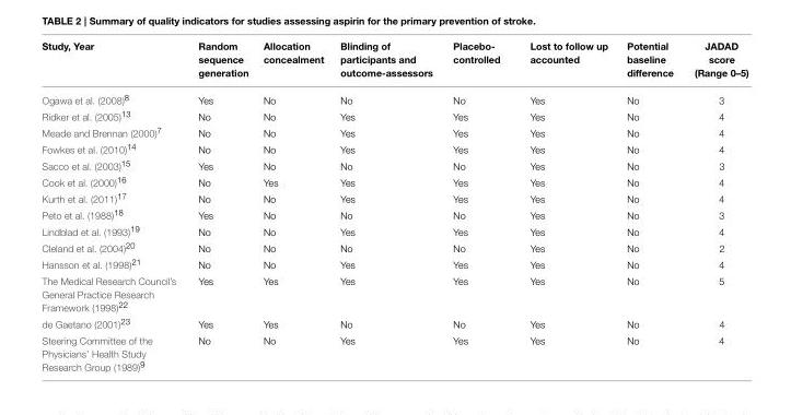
<table><thead><tr><td>Study, Year</td><td>Random sequence generation</td><td>Allocation concealment</td><td>Blinding of participants and outcome-assessors</td><td>Placebo- controlled</td><td>Lost to follow up accounted</td><td>Potential baseline difference</td><td>JADAD score (Range 0–5)</td></tr></thead><tbody><tr><td>Ogawa et al. (2008)<sup>8</sup></td><td>Yes</td><td>No</td><td>No</td><td>No</td><td>Yes</td><td>No</td><td>3</td></tr><tr><td>Ridker et al. (2005)<sup>13</sup></td><td>No</td><td>No</td><td>Yes</td><td>Yes</td><td>Yes</td><td>No</td><td>4</td></tr><tr><td>Meade and Brennan (2000)<sup>7</sup></td><td>No</td><td>No</td><td>Yes</td><td>Yes</td><td>Yes</td><td>No</td><td>4</td></tr><tr><td>Fowkes et al. (2010)<sup>14</sup></td><td>No</td><td>No</td><td>Yes</td><td>Yes</td><td>Yes</td><td>No</td><td>4</td></tr><tr><td>Sacco et al. (2003)<sup>15</sup></td><td>Yes</td><td>No</td><td>No</td><td>No</td><td>Yes</td><td>No</td><td>3</td></tr><tr><td>Cook et al. (2000)<sup>16</sup></td><td>No</td><td>Yes</td><td>Yes</td><td>Yes</td><td>Yes</td><td>No</td><td>4</td></tr><tr><td>Kurth et al. (2011)<sup>17</sup></td><td>No</td><td>No</td><td>Yes</td><td>Yes</td><td>Yes</td><td>No</td><td>4</td></tr><tr><td>Peto et al. (1988)<sup>18</sup></td><td>Yes</td><td>No</td><td>No</td><td>No</td><td>Yes</td><td>No</td><td>3</td></tr><tr><td>Lindblad et al. (1993)<sup>19</sup></td><td>No</td><td>No</td><td>Yes</td><td>Yes</td><td>Yes</td><td>No</td><td>4</td></tr><tr><td>Cleland et al. (2004)<sup>20</sup></td><td>No</td><td>No</td><td>No</td><td>No</td><td>Yes</td><td>No</td><td>2</td></tr><tr><td>Hansson et al. (1998)<sup>21</sup></td><td>No</td><td>No</td><td>Yes</td><td>Yes</td><td>Yes</td><td>No</td><td>4</td></tr><tr><td>The Medical Research Council’s General Practice Research Framework (1998)<sup>22</sup></td><td>Yes</td><td>Yes</td><td>Yes</td><td>Yes</td><td>Yes</td><td>No</td><td>5</td></tr><tr><td>de Gaetano (2001)<sup>23</sup></td><td>Yes</td><td>Yes</td><td>No</td><td>No</td><td>Yes</td><td>No</td><td>4</td></tr><tr><td>Steering Committee of the Physicians’ Health Study Research Group (1989)<sup>9</sup></td><td>No</td><td>No</td><td>Yes</td><td>Yes</td><td>Yes</td><td>No</td><td>4</td></tr></tbody></table>